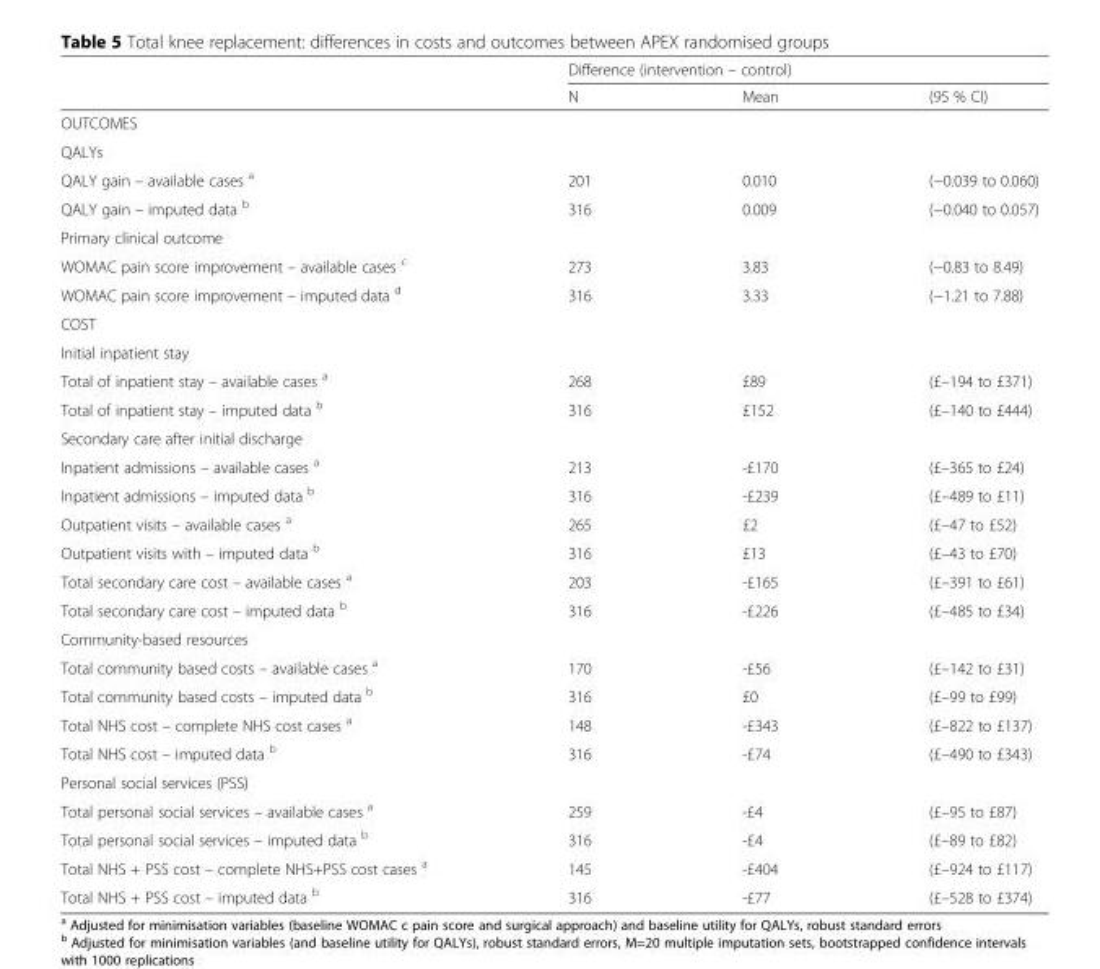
<table><thead><tr><td rowspan="2"></td><td colspan="3">Difference (intervention – control)</td></tr><tr><td>N</td><td>Mean</td><td>(95 % CI)</td></tr></thead><tbody><tr><td colspan="4">OUTCOMES</td></tr><tr><td colspan="4">QALYs</td></tr><tr><td>QALY gain – available cases <sup>a</sup></td><td>201</td><td>0.010</td><td>(−0.039 to 0.060)</td></tr><tr><td>QALY gain – imputed data <sup>b</sup></td><td>316</td><td>0.009</td><td>(−0.040 to 0.057)</td></tr><tr><td colspan="4">Primary clinical outcome</td></tr><tr><td>WOMAC pain score improvement – available cases <sup>c</sup></td><td>273</td><td>3.83</td><td>(−0.83 to 8.49)</td></tr><tr><td>WOMAC pain score improvement – imputed data <sup>d</sup></td><td>316</td><td>3.33</td><td>(−1.21 to 7.88)</td></tr><tr><td colspan="4">COST</td></tr><tr><td colspan="4">Initial inpatient stay</td></tr><tr><td>Total of inpatient stay – available cases <sup>a</sup></td><td>268</td><td>£89</td><td>(£–194 to £371)</td></tr><tr><td>Total of inpatient stay – imputed data <sup>b</sup></td><td>316</td><td>£152</td><td>(£–140 to £444)</td></tr><tr><td colspan="4">Secondary care after initial discharge</td></tr><tr><td>Inpatient admissions – available cases <sup>a</sup></td><td>213</td><td>-£170</td><td>(£–365 to £24)</td></tr><tr><td>Inpatient admissions – imputed data <sup>b</sup></td><td>316</td><td>-£239</td><td>(£–489 to £11)</td></tr><tr><td>Outpatient visits – available cases <sup>a</sup></td><td>265</td><td>£2</td><td>(£–47 to £52)</td></tr><tr><td>Outpatient visits with – imputed data <sup>b</sup></td><td>316</td><td>£13</td><td>(£–43 to £70)</td></tr><tr><td>Total secondary care cost – available cases <sup>a</sup></td><td>203</td><td>-£165</td><td>(£–391 to £61)</td></tr><tr><td>Total secondary care cost – imputed data <sup>b</sup></td><td>316</td><td>-£226</td><td>(£–485 to £34)</td></tr><tr><td colspan="4">Community-based resources</td></tr><tr><td>Total community based costs – available cases <sup>a</sup></td><td>170</td><td>-£56</td><td>(£–142 to £31)</td></tr><tr><td>Total community based costs – imputed data <sup>b</sup></td><td>316</td><td>£0</td><td>(£–99 to £99)</td></tr><tr><td>Total NHS cost – complete NHS cost cases <sup>a</sup></td><td>148</td><td>-£343</td><td>(£–822 to £137)</td></tr><tr><td>Total NHS cost – imputed data <sup>b</sup></td><td>316</td><td>-£74</td><td>(£–490 to £343)</td></tr><tr><td colspan="4">Personal social services (PSS)</td></tr><tr><td>Total personal social services – available cases <sup>a</sup></td><td>259</td><td>-£4</td><td>(£–95 to £87)</td></tr><tr><td>Total personal social services – imputed data <sup>b</sup></td><td>316</td><td>-£4</td><td>(£–89 to £82)</td></tr><tr><td>Total NHS + PSS cost – complete NHS+PSS cost cases <sup>a</sup></td><td>145</td><td>-£404</td><td>(£–924 to £117)</td></tr><tr><td>Total NHS + PSS cost – imputed data <sup>b</sup></td><td>316</td><td>-£77</td><td>(£–528 to £374)</td></tr></tbody></table>